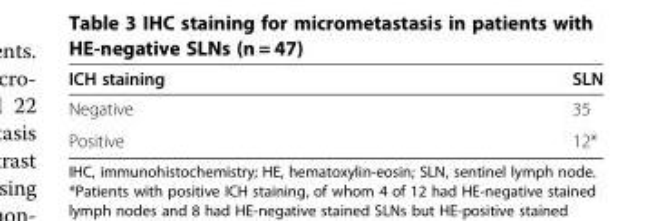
<table><thead><tr><td>ICH staining</td><td>SLN</td></tr></thead><tbody><tr><td>Negative</td><td>35</td></tr><tr><td>Positive</td><td>12*</td></tr></tbody></table>